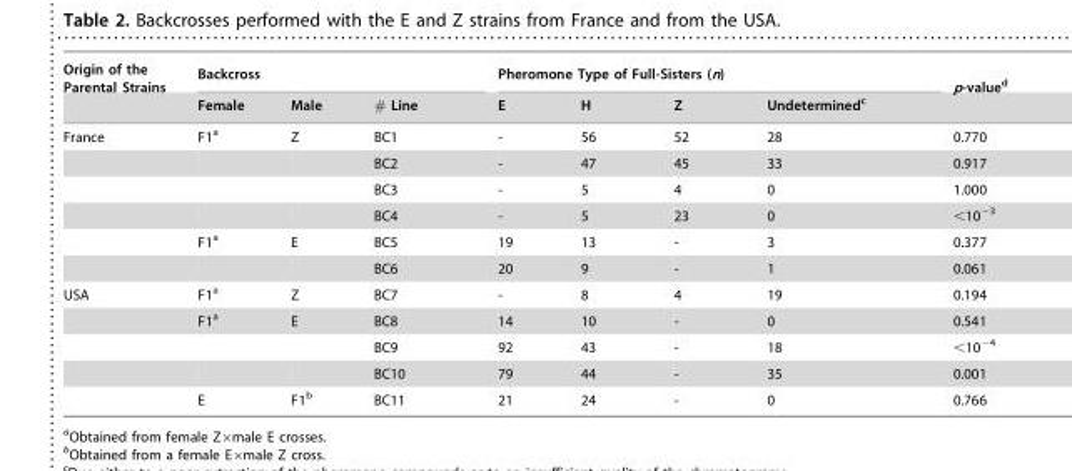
<table><thead><tr><td rowspan="2">Origin of the Parental Strains</td><td colspan="3">Backcross</td><td colspan="4">Pheromone Type of Full-Sisters (n)</td><td rowspan="2">p-value<sup>d</sup></td></tr><tr><td>Female</td><td>Male</td><td># Line</td><td>E</td><td>H</td><td>Z</td><td>Undetermined<sup>c</sup></td></tr></thead><tbody><tr><td rowspan="6">France</td><td>F1<sup>a</sup></td><td>Z</td><td>BC1</td><td>-</td><td>56</td><td>52</td><td>28</td><td>0.770</td></tr><tr><td></td><td></td><td>BC2</td><td>-</td><td>47</td><td>45</td><td>33</td><td>0.917</td></tr><tr><td></td><td></td><td>BC3</td><td>-</td><td>5</td><td>4</td><td>0</td><td>1.000</td></tr><tr><td></td><td></td><td>BC4</td><td>-</td><td>5</td><td>23</td><td>0</td><td>&lt;10<sup>−3</sup></td></tr><tr><td>F1<sup>a</sup></td><td>E</td><td>BC5</td><td>19</td><td>13</td><td>-</td><td>3</td><td>0.377</td></tr><tr><td></td><td></td><td>BC6</td><td>20</td><td>9</td><td>-</td><td>1</td><td>0.061</td></tr><tr><td rowspan="5">USA</td><td>F1<sup>a</sup></td><td>Z</td><td>BC7</td><td>-</td><td>8</td><td>4</td><td>19</td><td>0.194</td></tr><tr><td>F1<sup>a</sup></td><td>E</td><td>BC8</td><td>14</td><td>10</td><td>-</td><td>0</td><td>0.541</td></tr><tr><td></td><td></td><td>BC9</td><td>92</td><td>43</td><td>-</td><td>18</td><td>&lt;10<sup>−4</sup></td></tr><tr><td></td><td></td><td>BC10</td><td>79</td><td>44</td><td>-</td><td>35</td><td>0.001</td></tr><tr><td>E</td><td>F1<sup>b</sup></td><td>BC11</td><td>21</td><td>24</td><td>-</td><td>0</td><td>0.766</td></tr></tbody></table>